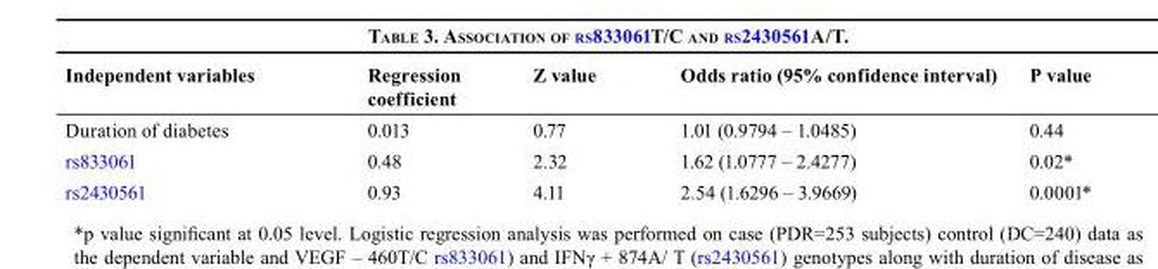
<table><thead><tr><td>Independent variables</td><td>Regression coefficient</td><td>Z value</td><td>Odds ratio (95% confidence interval)</td><td>P value</td></tr></thead><tbody><tr><td>Duration of diabetes</td><td>0.013</td><td>0.77</td><td>1.01 (0.9794 – 1.0485)</td><td>0.44</td></tr><tr><td>rs833061</td><td>0.48</td><td>2.32</td><td>1.62 (1.0777 – 2.4277)</td><td>0.02*</td></tr><tr><td>rs2430561</td><td>0.93</td><td>4.11</td><td>2.54 (1.6296 – 3.9669)</td><td>0.0001*</td></tr></tbody></table>